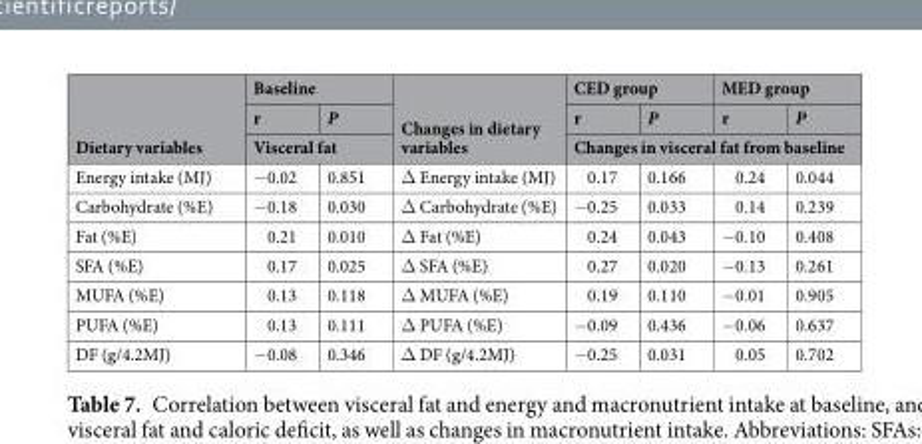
<table><thead><tr><td rowspan="3">Dietary variables</td><td colspan="2">Baseline</td><td rowspan="3">Changes in dietary variables</td><td colspan="2">CED group</td><td colspan="2">MED group</td></tr><tr><td>r</td><td>P</td><td>r</td><td>P</td><td>r</td><td>P</td></tr><tr><td colspan="2">Visceral fat</td><td colspan="4">Changes in visceral fat from baseline</td></tr></thead><tbody><tr><td>Energy intake (MJ)</td><td>−0.02</td><td>0.851</td><td>Δ Energy intake (MJ)</td><td>0.17</td><td>0.166</td><td>0.24</td><td>0.044</td></tr><tr><td>Carbohydrate (%E)</td><td>−0.18</td><td>0.030</td><td>Δ Carbohydrate (%E)</td><td>−0.25</td><td>0.033</td><td>0.14</td><td>0.239</td></tr><tr><td>Fat (%E)</td><td>0.21</td><td>0.010</td><td>Δ Fat (%E)</td><td>0.24</td><td>0.043</td><td>−0.10</td><td>0.408</td></tr><tr><td>SFA (%E)</td><td>0.17</td><td>0.025</td><td>Δ SFA (%E)</td><td>0.27</td><td>0.020</td><td>−0.13</td><td>0.261</td></tr><tr><td>MUFA (%E)</td><td>0.13</td><td>0.118</td><td>Δ MUFA (%E)</td><td>0.19</td><td>0.110</td><td>−0.01</td><td>0.905</td></tr><tr><td>PUFA (%E)</td><td>0.13</td><td>0.111</td><td>Δ PUFA (%E)</td><td>−0.09</td><td>0.436</td><td>−0.06</td><td>0.637</td></tr><tr><td>DF (g/4.2MJ)</td><td>−0.08</td><td>0.346</td><td>Δ DF (g/4.2MJ)</td><td>−0.25</td><td>0.031</td><td>0.05</td><td>0.702</td></tr></tbody></table>